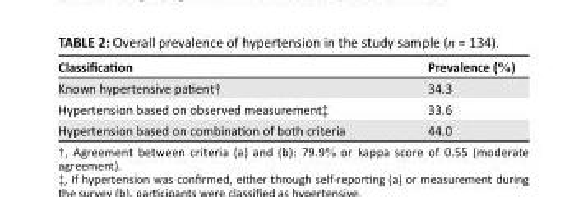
<table><thead><tr><td>Classification</td><td>Prevalence (%)</td></tr></thead><tbody><tr><td>Known hypertensive patient†</td><td>34.3</td></tr><tr><td>Hypertension based on observed measurement‡</td><td>33.6</td></tr><tr><td>Hypertension based on combination of both criteria</td><td>44.0</td></tr></tbody></table>